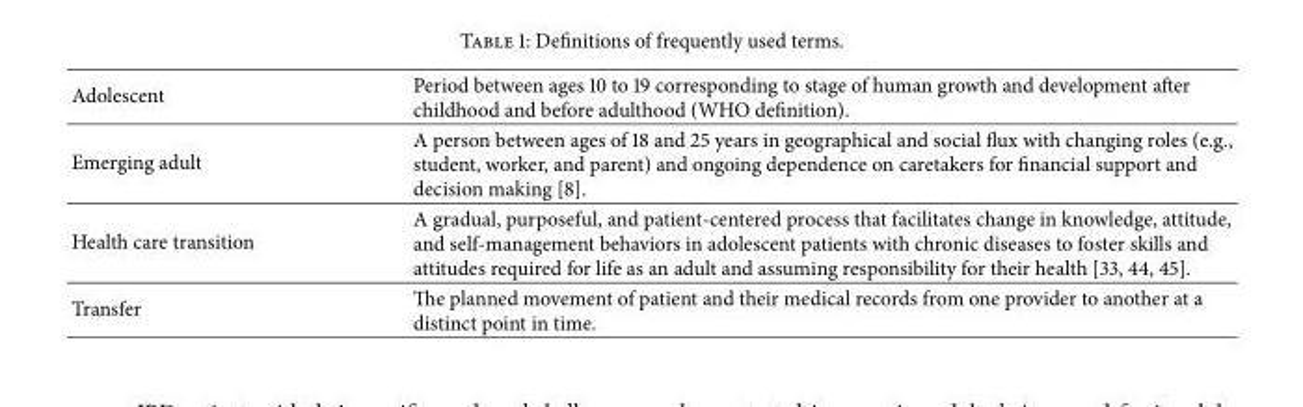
<table><tbody><tr><td>Adolescent</td><td>Period between ages 10 to 19 corresponding to stage of human growth and development after childhood and before adulthood (WHO definition).</td></tr><tr><td>Emerging adult</td><td>A person between ages of 18 and 25 years in geographical and social flux with changing roles (e.g., student, worker, and parent) and ongoing dependence on caretakers for financial support and decision making [8].</td></tr><tr><td>Health care transition</td><td>A gradual, purposeful, and patient-centered process that facilitates change in knowledge, attitude, and self-management behaviors in adolescent patients with chronic diseases to foster skills and attitudes required for life as an adult and assuming responsibility for their health [33, 44, 45].</td></tr><tr><td>Transfer</td><td>The planned movement of patient and their medical records from one provider to another at a distinct point in time.</td></tr></tbody></table>